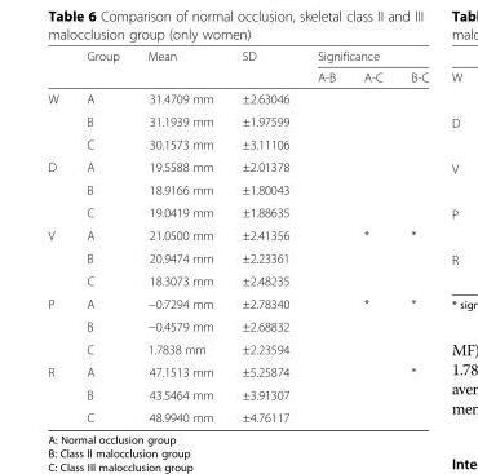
<table><thead><tr><td rowspan="2"></td><td rowspan="2">Group</td><td rowspan="2">Mean</td><td rowspan="2">SD</td><td colspan="3">Significance</td></tr><tr><td>A-B</td><td>A-C</td><td>B-C</td></tr></thead><tbody><tr><td rowspan="3">W</td><td>A</td><td>31.4709 mm</td><td>±2.63046</td><td rowspan="3"></td><td rowspan="3"></td><td rowspan="3"></td></tr><tr><td>B</td><td>31.1939 mm</td><td>±1.97599</td></tr><tr><td>C</td><td>30.1573 mm</td><td>±3.11106</td></tr><tr><td rowspan="3">D</td><td>A</td><td>19.5588 mm</td><td>±2.01378</td><td rowspan="3"></td><td rowspan="3"></td><td rowspan="3"></td></tr><tr><td>B</td><td>18.9166 mm</td><td>±1.80043</td></tr><tr><td>C</td><td>19.0419 mm</td><td>±1.88635</td></tr><tr><td rowspan="3">V</td><td>A</td><td>21.0500 mm</td><td>±2.41356</td><td rowspan="3"></td><td rowspan="3">*</td><td rowspan="3">*</td></tr><tr><td>B</td><td>20.9474 mm</td><td>±2.23361</td></tr><tr><td>C</td><td>18.3073 mm</td><td>±2.48235</td></tr><tr><td rowspan="3">P</td><td>A</td><td>−0.7294 mm</td><td>±2.78340</td><td rowspan="3"></td><td rowspan="3">*</td><td rowspan="3">*</td></tr><tr><td>B</td><td>−0.4579 mm</td><td>±2.68832</td></tr><tr><td>C</td><td>1.7838 mm</td><td>±2.23594</td></tr><tr><td rowspan="3">R</td><td>A</td><td>47.1513 mm</td><td>±5.25874</td><td rowspan="3"></td><td rowspan="3"></td><td rowspan="3">*</td></tr><tr><td>B</td><td>43.5464 mm</td><td>±3.91307</td></tr><tr><td>C</td><td>48.9940 mm</td><td>±4.76117</td></tr></tbody></table>